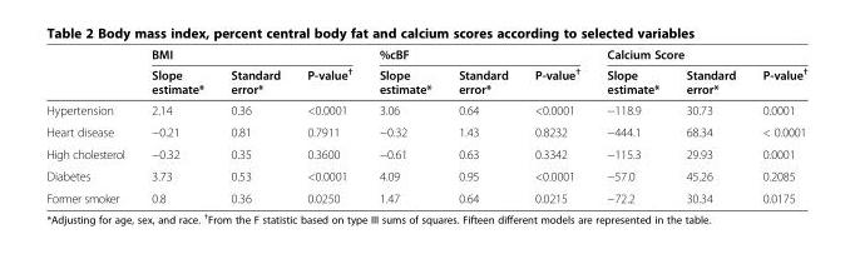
<table><thead><tr><td rowspan="2"></td><td colspan="3">BMI</td><td colspan="3">%cBF</td><td colspan="3">Calcium Score</td></tr><tr><td>Slope estimate*</td><td>Standard error*</td><td>P-value<sup>†</sup></td><td>Slope estimate*</td><td>Standard error*</td><td>P-value<sup>†</sup></td><td>Slope estimate*</td><td>Standard error*</td><td>P-value<sup>†</sup></td></tr></thead><tbody><tr><td>Hypertension</td><td>2.14</td><td>0.36</td><td>&lt;0.0001</td><td>3.06</td><td>0.64</td><td>&lt;0.0001</td><td>−118.9</td><td>30.73</td><td>0.0001</td></tr><tr><td>Heart disease</td><td>−0.21</td><td>0.81</td><td>0.7911</td><td>−0.32</td><td>1.43</td><td>0.8232</td><td>−444.1</td><td>68.34</td><td>&lt; 0.0001</td></tr><tr><td>High cholesterol</td><td>−0.32</td><td>0.35</td><td>0.3600</td><td>−0.61</td><td>0.63</td><td>0.3342</td><td>−115.3</td><td>29.93</td><td>0.0001</td></tr><tr><td>Diabetes</td><td>3.73</td><td>0.53</td><td>&lt;0.0001</td><td>4.09</td><td>0.95</td><td>&lt;0.0001</td><td>−57.0</td><td>45.26</td><td>0.2085</td></tr><tr><td>Former smoker</td><td>0.8</td><td>0.36</td><td>0.0250</td><td>1.47</td><td>0.64</td><td>0.0215</td><td>−72.2</td><td>30.34</td><td>0.0175</td></tr></tbody></table>